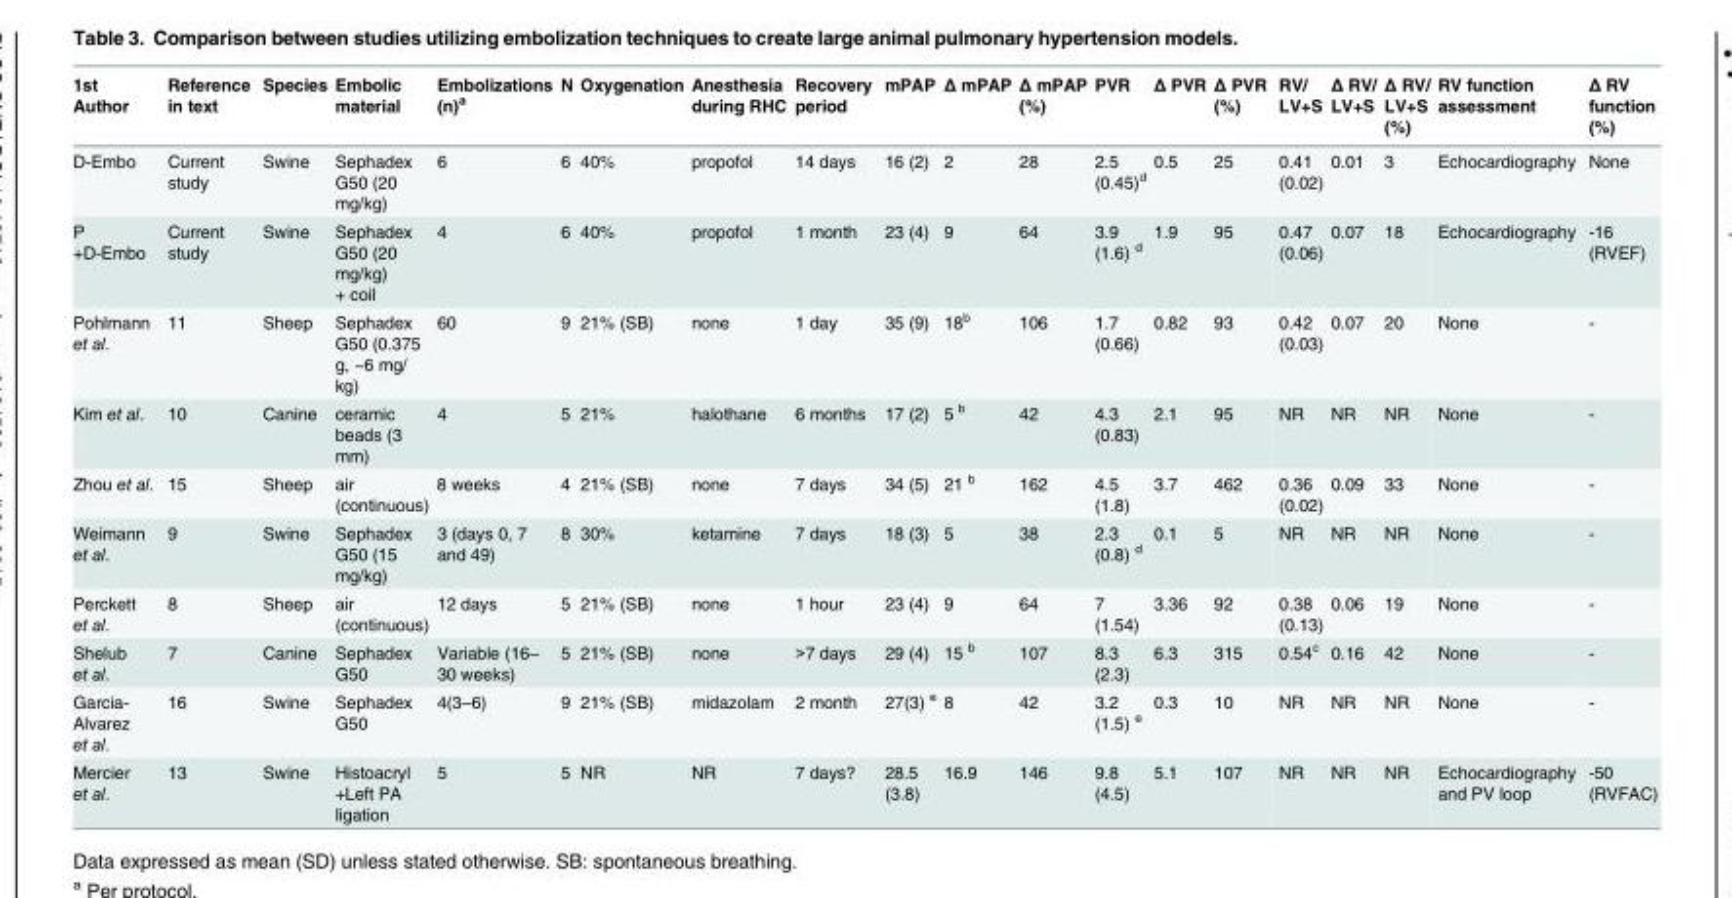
<table><thead><tr><td>1st Author</td><td>Reference in text</td><td>Species</td><td>Embolic material</td><td>Embolizations (n)<sup>a</sup></td><td>N</td><td>Oxygenation</td><td>Anesthesia during RHC</td><td>Recovery period</td><td>mPAP</td><td>Δ mPAP</td><td>Δ mPAP (%)</td><td>PVR</td><td>Δ PVR</td><td>Δ PVR (%)</td><td>RV/ LV+S</td><td>Δ RV/ LV+S</td><td>Δ RV/ LV+S (%)</td><td>RV function assessment</td><td>Δ RV function (%)</td></tr></thead><tbody><tr><td>D-Embo</td><td>Current study</td><td>Swine</td><td>Sephadex G50 (20 mg/kg)</td><td>6</td><td>6</td><td>40%</td><td>propofol</td><td>14 days</td><td>16 (2)</td><td>2</td><td>28</td><td>2.5 (0.45)<sup>d</sup></td><td>0.5</td><td>25</td><td>0.41 (0.02)</td><td>0.01</td><td>3</td><td>Echocardiography</td><td>None</td></tr><tr><td>P +D-Embo</td><td>Current study</td><td>Swine</td><td>Sephadex G50 (20 mg/kg) + coil</td><td>4</td><td>6</td><td>40%</td><td>propofol</td><td>1 month</td><td>23 (4)</td><td>9</td><td>64</td><td>3.9 (1.6) <sup>d</sup></td><td>1.9</td><td>95</td><td>0.47 (0.06)</td><td>0.07</td><td>18</td><td>Echocardiography</td><td>-16 (RVEF)</td></tr><tr><td>Pohlmann et al.</td><td>11</td><td>Sheep</td><td>Sephadex G50 (0.375 g, ~6 mg/ kg)</td><td>60</td><td>9</td><td>21% (SB)</td><td>none</td><td>1 day</td><td>35 (9)</td><td>18<sup>b</sup></td><td>106</td><td>1.7 (0.66)</td><td>0.82</td><td>93</td><td>0.42 (0.03)</td><td>0.07</td><td>20</td><td>None</td><td>-</td></tr><tr><td>Kim et al.</td><td>10</td><td>Canine</td><td>ceramic beads (3 mm)</td><td>4</td><td>5</td><td>21%</td><td>halothane</td><td>6 months</td><td>17 (2)</td><td>5 <sup>b</sup></td><td>42</td><td>4.3 (0.83)</td><td>2.1</td><td>95</td><td>NR</td><td>NR</td><td>NR</td><td>None</td><td>-</td></tr><tr><td>Zhou et al.</td><td>15</td><td>Sheep</td><td>air (continuous)</td><td>8 weeks</td><td>4</td><td>21% (SB)</td><td>none</td><td>7 days</td><td>34 (5)</td><td>21 <sup>b</sup></td><td>162</td><td>4.5 (1.8)</td><td>3.7</td><td>462</td><td>0.36 (0.02)</td><td>0.09</td><td>33</td><td>None</td><td>-</td></tr><tr><td>Weimann et al.</td><td>9</td><td>Swine</td><td>Sephadex G50 (15 mg/kg)</td><td>3 (days 0, 7 and 49)</td><td>8</td><td>30%</td><td>ketamine</td><td>7 days</td><td>18 (3)</td><td>5</td><td>38</td><td>2.3 (0.8) <sup>d</sup></td><td>0.1</td><td>5</td><td>NR</td><td>NR</td><td>NR</td><td>None</td><td>-</td></tr><tr><td>Perckett et al.</td><td>8</td><td>Sheep</td><td>air (continuous)</td><td>12 days</td><td>5</td><td>21% (SB)</td><td>none</td><td>1 hour</td><td>23 (4)</td><td>9</td><td>64</td><td>7 (1.54)</td><td>3.36</td><td>92</td><td>0.38 (0.13)</td><td>0.06</td><td>19</td><td>None</td><td>-</td></tr><tr><td>Shelub et al.</td><td>7</td><td>Canine</td><td>Sephadex G50</td><td>Variable (16– 30 weeks)</td><td>5</td><td>21% (SB)</td><td>none</td><td>&gt;7 days</td><td>29 (4)</td><td>15 <sup>b</sup></td><td>107</td><td>8.3 (2.3)</td><td>6.3</td><td>315</td><td>0.54<sup>c</sup></td><td>0.16</td><td>42</td><td>None</td><td>-</td></tr><tr><td>Garcia- Alvarez et al.</td><td>16</td><td>Swine</td><td>Sephadex G50</td><td>4(3–6)</td><td>9</td><td>21% (SB)</td><td>midazolam</td><td>2 month</td><td>27(3) <sup>e</sup></td><td>8</td><td>42</td><td>3.2 (1.5) <sup>e</sup></td><td>0.3</td><td>10</td><td>NR</td><td>NR</td><td>NR</td><td>None</td><td>-</td></tr><tr><td>Mercier et al.</td><td>13</td><td>Swine</td><td>Histoacryl +Left PA ligation</td><td>5</td><td>5</td><td>NR</td><td>NR</td><td>7 days?</td><td>28.5 (3.8)</td><td>16.9</td><td>146</td><td>9.8 (4.5)</td><td>5.1</td><td>107</td><td>NR</td><td>NR</td><td>NR</td><td>Echocardiography and PV loop</td><td>-50 (RVFAC)</td></tr></tbody></table>